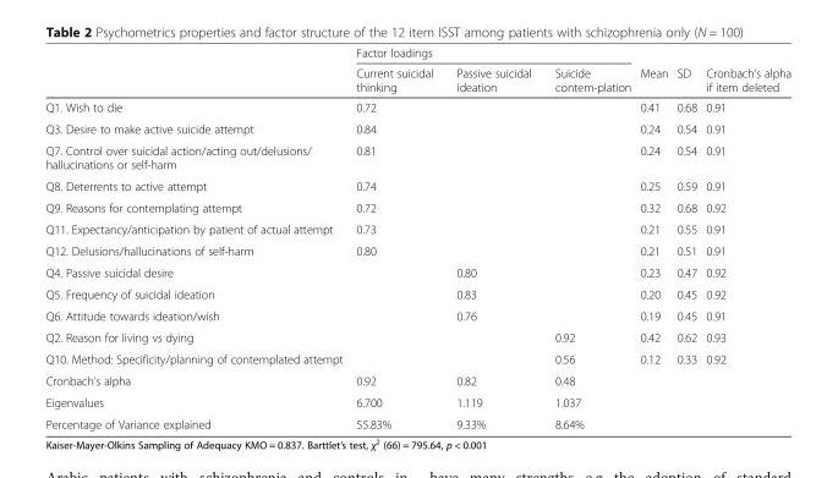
<table><thead><tr><td rowspan="2"></td><td colspan="3">Factor loadings</td><td rowspan="2">Mean</td><td rowspan="2">SD</td><td rowspan="2">Cronbach’s alpha if item deleted</td></tr><tr><td>Current suicidal thinking</td><td>Passive suicidal ideation</td><td>Suicide contem-plation</td></tr></thead><tbody><tr><td>Q1. Wish to die</td><td>0.72</td><td></td><td></td><td>0.41</td><td>0.68</td><td>0.91</td></tr><tr><td>Q3. Desire to make active suicide attempt</td><td>0.84</td><td></td><td></td><td>0.24</td><td>0.54</td><td>0.91</td></tr><tr><td>Q7. Control over suicidal action/acting out/delusions/ hallucinations or self-harm</td><td>0.81</td><td></td><td></td><td>0.24</td><td>0.54</td><td>0.91</td></tr><tr><td>Q8. Deterrents to active attempt</td><td>0.74</td><td></td><td></td><td>0.25</td><td>0.59</td><td>0.91</td></tr><tr><td>Q9. Reasons for contemplating attempt</td><td>0.72</td><td></td><td></td><td>0.32</td><td>0.68</td><td>0.92</td></tr><tr><td>Q11. Expectancy/anticipation by patient of actual attempt</td><td>0.73</td><td></td><td></td><td>0.21</td><td>0.55</td><td>0.91</td></tr><tr><td>Q12. Delusions/hallucinations of self-harm</td><td>0.80</td><td></td><td></td><td>0.21</td><td>0.51</td><td>0.91</td></tr><tr><td>Q4. Passive suicidal desire</td><td></td><td>0.80</td><td></td><td>0.23</td><td>0.47</td><td>0.92</td></tr><tr><td>Q5. Frequency of suicidal ideation</td><td></td><td>0.83</td><td></td><td>0.20</td><td>0.45</td><td>0.92</td></tr><tr><td>Q6. Attitude towards ideation/wish</td><td></td><td>0.76</td><td></td><td>0.19</td><td>0.45</td><td>0.91</td></tr><tr><td>Q2. Reason for living vs dying</td><td></td><td></td><td>0.92</td><td>0.42</td><td>0.62</td><td>0.93</td></tr><tr><td>Q10. Method: Specificity/planning of contemplated attempt</td><td></td><td></td><td>0.56</td><td>0.12</td><td>0.33</td><td>0.92</td></tr><tr><td>Cronbach’s alpha</td><td>0.92</td><td>0.82</td><td>0.48</td><td></td><td></td><td></td></tr><tr><td>Eigenvalues</td><td>6.700</td><td>1.119</td><td>1.037</td><td></td><td></td><td></td></tr><tr><td>Percentage of Variance explained</td><td>55.83%</td><td>9.33%</td><td>8.64%</td><td></td><td></td><td></td></tr></tbody></table>